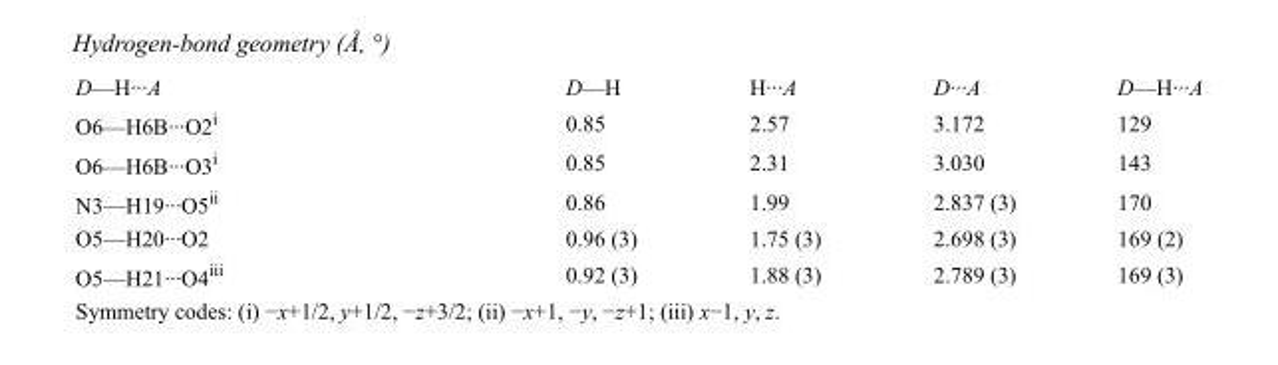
<table><tbody><tr><td>D—H···A</td><td>D—H</td><td>H···A</td><td>D···A</td><td>D—H···A</td></tr><tr><td>O6—H6B···O2<sup>i</sup></td><td>0.85</td><td>2.57</td><td>3.172</td><td>129</td></tr><tr><td>O6—H6B···O3<sup>i</sup></td><td>0.85</td><td>2.31</td><td>3.030</td><td>143</td></tr><tr><td>N3—H19···O5<sup>ii</sup></td><td>0.86</td><td>1.99</td><td>2.837 (3)</td><td>170</td></tr><tr><td>O5—H20···O2</td><td>0.96 (3)</td><td>1.75 (3)</td><td>2.698 (3)</td><td>169 (2)</td></tr><tr><td>O5—H21···O4<sup>iii</sup></td><td>0.92 (3)</td><td>1.88 (3)</td><td>2.789 (3)</td><td>169 (3)</td></tr></tbody></table>